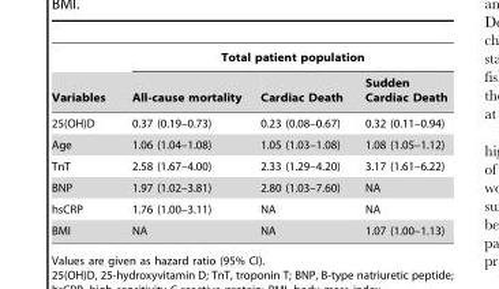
<table><thead><tr><td rowspan="2">Variables</td><td colspan="3">Total patient population</td></tr><tr><td>All-cause mortality</td><td>Cardiac Death</td><td>Sudden Cardiac Death</td></tr></thead><tbody><tr><td>25(OH)D</td><td>0.37 (0.19–0.73)</td><td>0.23 (0.08–0.67)</td><td>0.32 (0.11–0.94)</td></tr><tr><td>Age</td><td>1.06 (1.04–1.08)</td><td>1.05 (1.03–1.08)</td><td>1.08 (1.05–1.12)</td></tr><tr><td>TnT</td><td>2.58 (1.67–4.00)</td><td>2.33 (1.29–4.20)</td><td>3.17 (1.61–6.22)</td></tr><tr><td>BNP</td><td>1.97 (1.02–3.81)</td><td>2.80 (1.03–7.60)</td><td>NA</td></tr><tr><td>hsCRP</td><td>1.76 (1.00–3.11)</td><td>NA</td><td>NA</td></tr><tr><td>BMI</td><td>NA</td><td>NA</td><td>1.07 (1.00–1.13)</td></tr></tbody></table>